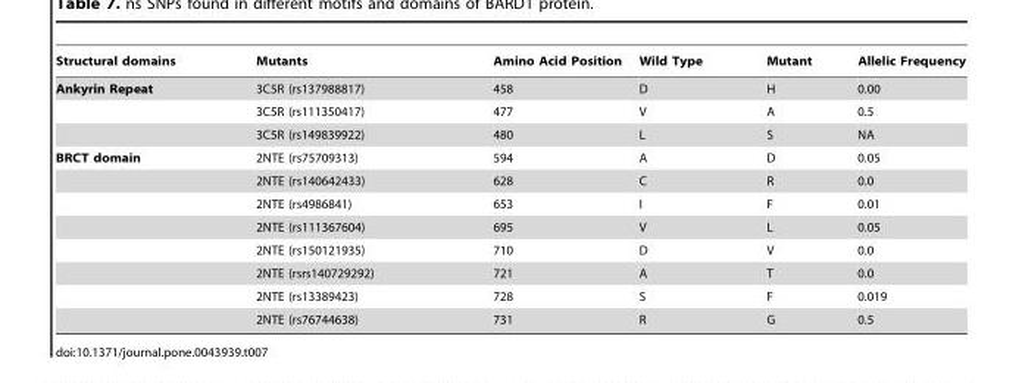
<table><thead><tr><td>Structural domains</td><td>Mutants</td><td>Amino Acid Position</td><td>Wild Type</td><td>Mutant</td><td>Allelic Frequency</td></tr></thead><tbody><tr><td rowspan="3">Ankyrin Repeat</td><td>3C5R (rs137988817)</td><td>458</td><td>D</td><td>H</td><td>0.00</td></tr><tr><td>3C5R (rs111350417)</td><td>477</td><td>V</td><td>A</td><td>0.5</td></tr><tr><td>3C5R (rs149839922)</td><td>480</td><td>L</td><td>S</td><td>NA</td></tr><tr><td rowspan="8">BRCT domain</td><td>2NTE (rs75709313)</td><td>594</td><td>A</td><td>D</td><td>0.05</td></tr><tr><td>2NTE (rs140642433)</td><td>628</td><td>C</td><td>R</td><td>0.0</td></tr><tr><td>2NTE (rs4986841)</td><td>653</td><td>I</td><td>F</td><td>0.01</td></tr><tr><td>2NTE (rs111367604)</td><td>695</td><td>V</td><td>L</td><td>0.05</td></tr><tr><td>2NTE (rs150121935)</td><td>710</td><td>D</td><td>V</td><td>0.0</td></tr><tr><td>2NTE (rsrs140729292)</td><td>721</td><td>A</td><td>T</td><td>0.0</td></tr><tr><td>2NTE (rs13389423)</td><td>728</td><td>S</td><td>F</td><td>0.019</td></tr><tr><td>2NTE (rs76744638)</td><td>731</td><td>R</td><td>G</td><td>0.5</td></tr></tbody></table>